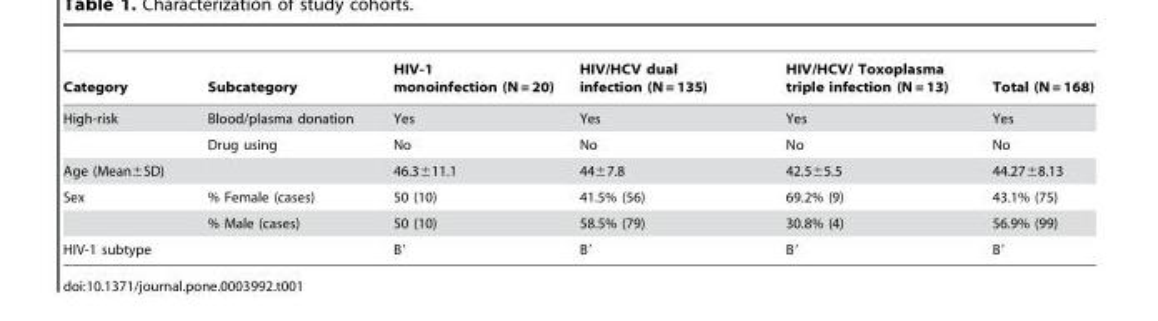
<table><thead><tr><td>Category</td><td>Subcategory</td><td>HIV-1 monoinfection (N = 20)</td><td>HIV/HCV dual infection (N = 135)</td><td>HIV/HCV/ Toxoplasma triple infection (N = 13)</td><td>Total (N = 168)</td></tr></thead><tbody><tr><td rowspan="2">High-risk</td><td>Blood/plasma donation</td><td>Yes</td><td>Yes</td><td>Yes</td><td>Yes</td></tr><tr><td>Drug using</td><td>No</td><td>No</td><td>No</td><td>No</td></tr><tr><td>Age (Mean±SD)</td><td></td><td>46.3±11.1</td><td>44±7.8</td><td>42.5±5.5</td><td>44.27±8.13</td></tr><tr><td rowspan="2">Sex</td><td>% Female (cases)</td><td>50 (10)</td><td>41.5% (56)</td><td>69.2% (9)</td><td>43.1% (75)</td></tr><tr><td>% Male (cases)</td><td>50 (10)</td><td>58.5% (79)</td><td>30.8% (4)</td><td>56.9% (99)</td></tr><tr><td>HIV-1 subtype</td><td></td><td>B′</td><td>B′</td><td>B′</td><td>B′</td></tr></tbody></table>